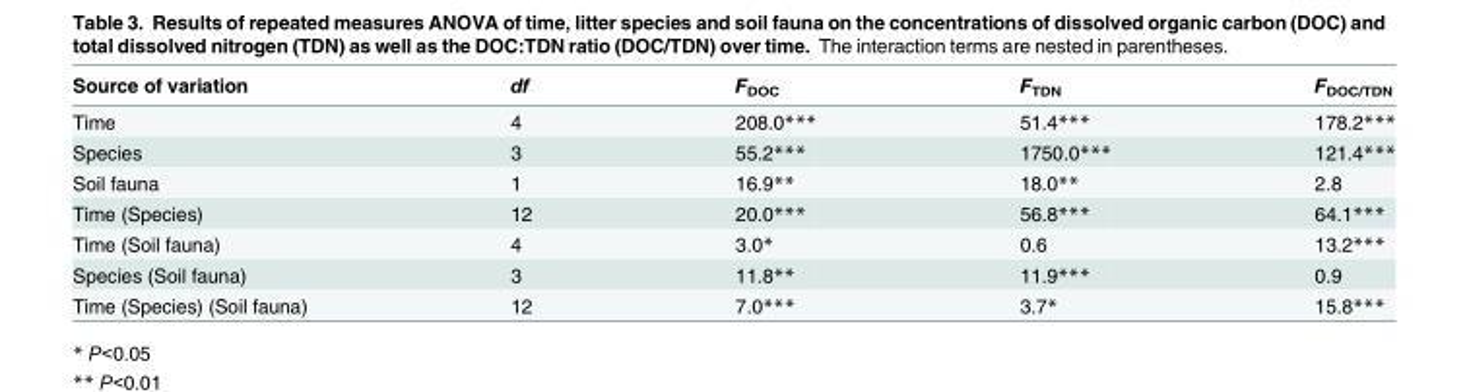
<table><thead><tr><td>Source of variation</td><td>df</td><td>F<sub>DOC</sub></td><td>F<sub>TDN</sub></td><td>F<sub>DOC/TDN</sub></td></tr></thead><tbody><tr><td>Time</td><td>4</td><td>208.0***</td><td>51.4***</td><td>178.2***</td></tr><tr><td>Species</td><td>3</td><td>55.2***</td><td>1750.0***</td><td>121.4***</td></tr><tr><td>Soil fauna</td><td>1</td><td>16.9**</td><td>18.0**</td><td>2.8</td></tr><tr><td>Time (Species)</td><td>12</td><td>20.0***</td><td>56.8***</td><td>64.1***</td></tr><tr><td>Time (Soil fauna)</td><td>4</td><td>3.0*</td><td>0.6</td><td>13.2***</td></tr><tr><td>Species (Soil fauna)</td><td>3</td><td>11.8**</td><td>11.9***</td><td>0.9</td></tr><tr><td>Time (Species) (Soil fauna)</td><td>12</td><td>7.0***</td><td>3.7*</td><td>15.8***</td></tr></tbody></table>